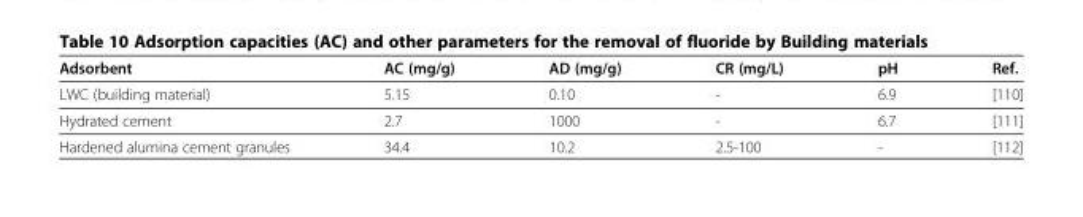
<table><thead><tr><td>Adsorbent</td><td>AC (mg/g)</td><td>AD (mg/g)</td><td>CR (mg/L)</td><td>pH</td><td>Ref.</td></tr></thead><tbody><tr><td>LWC (building material)</td><td>5.15</td><td>0.10</td><td>-</td><td>6.9</td><td>[110]</td></tr><tr><td>Hydrated cement</td><td>2.7</td><td>1000</td><td>-</td><td>6.7</td><td>[111]</td></tr><tr><td>Hardened alumina cement granules</td><td>34.4</td><td>10.2</td><td>2.5-100</td><td>-</td><td>[112]</td></tr></tbody></table>